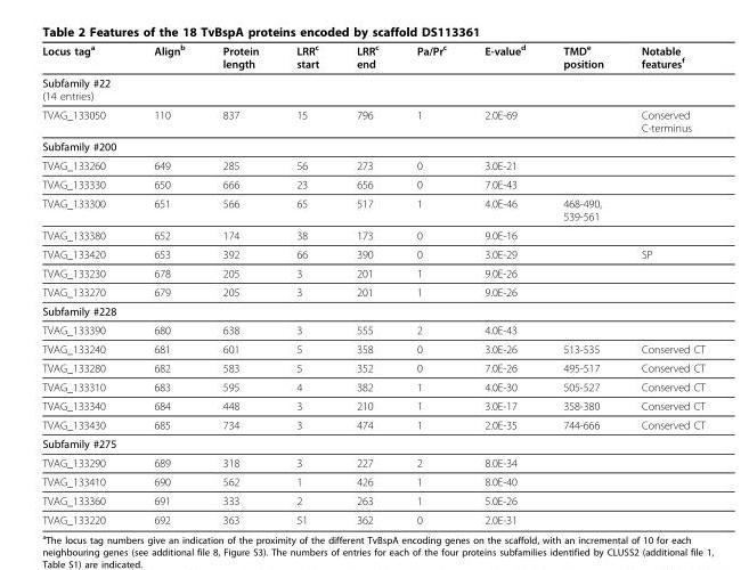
<table><thead><tr><td>Locus tag<sup>a</sup></td><td>Align<sup>b</sup></td><td>Protein length</td><td>LRR<sup>c</sup> start</td><td>LRR<sup>c</sup> end</td><td>Pa/Pr<sup>c</sup></td><td>E-value<sup>d</sup></td><td>TMD<sup>e</sup> position</td><td>Notable features<sup>f</sup></td></tr></thead><tbody><tr><td colspan="9">Subfamily #22 (14 entries)</td></tr><tr><td>TVAG_133050</td><td>110</td><td>837</td><td>15</td><td>796</td><td>1</td><td>2.0E-69</td><td></td><td>Conserved C-terminus</td></tr><tr><td colspan="9">Subfamily #200</td></tr><tr><td>TVAG_133260</td><td>649</td><td>285</td><td>56</td><td>273</td><td>0</td><td>3.0E-21</td><td></td><td></td></tr><tr><td>TVAG_133330</td><td>650</td><td>666</td><td>23</td><td>656</td><td>0</td><td>7.0E-43</td><td></td><td></td></tr><tr><td>TVAG_133300</td><td>651</td><td>566</td><td>65</td><td>517</td><td>1</td><td>4.0E-46</td><td>468-490, 539-561</td><td></td></tr><tr><td>TVAG_133380</td><td>652</td><td>174</td><td>38</td><td>173</td><td>0</td><td>9.0E-16</td><td></td><td></td></tr><tr><td>TVAG_133420</td><td>653</td><td>392</td><td>66</td><td>390</td><td>0</td><td>3.0E-29</td><td></td><td>SP</td></tr><tr><td>TVAG_133230</td><td>678</td><td>205</td><td>3</td><td>201</td><td>1</td><td>9.0E-26</td><td></td><td></td></tr><tr><td>TVAG_133270</td><td>679</td><td>205</td><td>3</td><td>201</td><td>1</td><td>9.0E-26</td><td></td><td></td></tr><tr><td colspan="9">Subfamily #228</td></tr><tr><td>TVAG_133390</td><td>680</td><td>638</td><td>3</td><td>555</td><td>2</td><td>4.0E-43</td><td></td><td></td></tr><tr><td>TVAG_133240</td><td>681</td><td>601</td><td>5</td><td>358</td><td>0</td><td>3.0E-26</td><td>513-535</td><td>Conserved CT</td></tr><tr><td>TVAG_133280</td><td>682</td><td>583</td><td>5</td><td>352</td><td>0</td><td>7.0E-26</td><td>495-517</td><td>Conserved CT</td></tr><tr><td>TVAG_133310</td><td>683</td><td>595</td><td>4</td><td>382</td><td>1</td><td>4.0E-30</td><td>505-527</td><td>Conserved CT</td></tr><tr><td>TVAG_133340</td><td>684</td><td>448</td><td>3</td><td>210</td><td>1</td><td>3.0E-17</td><td>358-380</td><td>Conserved CT</td></tr><tr><td>TVAG_133430</td><td>685</td><td>734</td><td>3</td><td>474</td><td>1</td><td>2.0E-35</td><td>744-666</td><td>Conserved CT</td></tr><tr><td colspan="9">Subfamily #275</td></tr><tr><td>TVAG_133290</td><td>689</td><td>318</td><td>3</td><td>227</td><td>2</td><td>8.0E-34</td><td></td><td></td></tr><tr><td>TVAG_133410</td><td>690</td><td>562</td><td>1</td><td>426</td><td>1</td><td>8.0E-40</td><td></td><td></td></tr><tr><td>TVAG_133360</td><td>691</td><td>333</td><td>2</td><td>263</td><td>1</td><td>5.0E-26</td><td></td><td></td></tr><tr><td>TVAG_133220</td><td>692</td><td>363</td><td>51</td><td>362</td><td>0</td><td>2.0E-31</td><td></td><td></td></tr></tbody></table>